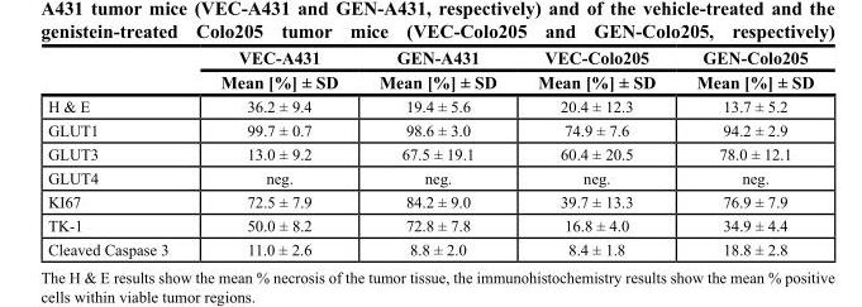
<table><thead><tr><td rowspan="2"></td><td rowspan="2">VEC-A431 Mean [%] ± SD</td><td rowspan="2">GEN-A431 Mean [%] ± SD</td><td rowspan="2">VEC-Colo205 Mean [%] ± SD</td><td rowspan="2">GEN-Colo205 Mean [%] ± SD</td></tr><tr></tr></thead><tbody><tr><td>H &amp; E</td><td>36.2 ± 9.4</td><td>19.4 ± 5.6</td><td>20.4 ± 12.3</td><td>13.7 ± 5.2</td></tr><tr><td>GLUT1</td><td>99.7 ± 0.7</td><td>98.6 ± 3.0</td><td>74.9 ± 7.6</td><td>94.2 ± 2.9</td></tr><tr><td>GLUT3</td><td>13.0 ± 9.2</td><td>67.5 ± 19.1</td><td>60.4 ± 20.5</td><td>78.0 ± 12.1</td></tr><tr><td>GLUT4</td><td>neg.</td><td>neg.</td><td>neg.</td><td>neg.</td></tr><tr><td>KI67</td><td>72.5 ± 7.9</td><td>84.2 ± 9.0</td><td>39.7 ± 13.3</td><td>76.9 ± 7.9</td></tr><tr><td>TK-1</td><td>50.0 ± 8.2</td><td>72.8 ± 7.8</td><td>16.8 ± 4.0</td><td>34.9 ± 4.4</td></tr><tr><td>Cleaved Caspase 3</td><td>11.0 ± 2.6</td><td>8.8 ± 2.0</td><td>8.4 ± 1.8</td><td>18.8 ± 2.8</td></tr></tbody></table>